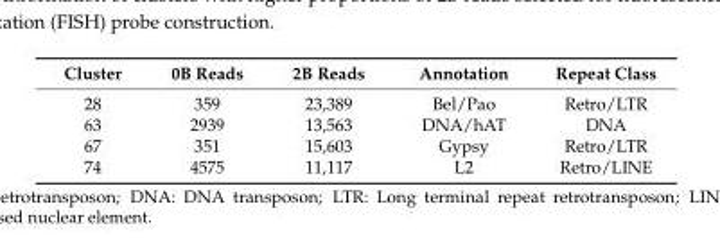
<table><thead><tr><td>Cluster</td><td>0B Reads</td><td>2B Reads</td><td>Annotation</td><td>Repeat Class</td></tr></thead><tbody><tr><td>28</td><td>359</td><td>23,389</td><td>Bel/Pao</td><td>Retro/LTR</td></tr><tr><td>63</td><td>2939</td><td>13,563</td><td>DNA/hAT</td><td>DNA</td></tr><tr><td>67</td><td>351</td><td>15,603</td><td>Gypsy</td><td>Retro/LTR</td></tr><tr><td>74</td><td>4575</td><td>11,117</td><td>L2</td><td>Retro/LINE</td></tr></tbody></table>